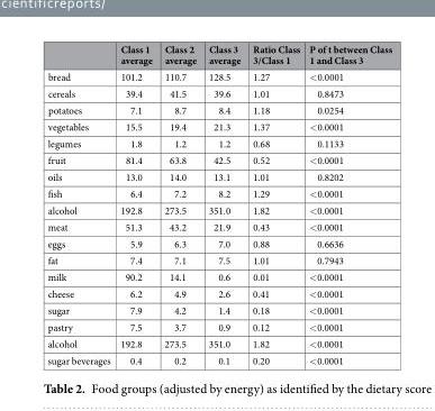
<table><thead><tr><td></td><td>Class 1 average</td><td>Class 2 average</td><td>Class 3 average</td><td>Ratio Class 3/Class 1</td><td>P of t between Class 1 and Class 3</td></tr></thead><tbody><tr><td>bread</td><td>101.2</td><td>110.7</td><td>128.5</td><td>1.27</td><td>&lt;0.0001</td></tr><tr><td>cereals</td><td>39.4</td><td>41.5</td><td>39.6</td><td>1.01</td><td>0.8473</td></tr><tr><td>potatoes</td><td>7.1</td><td>8.7</td><td>8.4</td><td>1.18</td><td>0.0254</td></tr><tr><td>vegetables</td><td>15.5</td><td>19.4</td><td>21.3</td><td>1.37</td><td>&lt;0.0001</td></tr><tr><td>legumes</td><td>1.8</td><td>1.2</td><td>1.2</td><td>0.68</td><td>0.1133</td></tr><tr><td>fruit</td><td>81.4</td><td>63.8</td><td>42.5</td><td>0.52</td><td>&lt;0.0001</td></tr><tr><td>oils</td><td>13.0</td><td>14.0</td><td>13.1</td><td>1.01</td><td>0.8202</td></tr><tr><td>fish</td><td>6.4</td><td>7.2</td><td>8.2</td><td>1.29</td><td>&lt;0.0001</td></tr><tr><td>alcohol</td><td>192.8</td><td>273.5</td><td>351.0</td><td>1.82</td><td>&lt;0.0001</td></tr><tr><td>meat</td><td>51.3</td><td>43.2</td><td>21.9</td><td>0.43</td><td>&lt;0.0001</td></tr><tr><td>eggs</td><td>5.9</td><td>6.3</td><td>7.0</td><td>0.88</td><td>0.6636</td></tr><tr><td>fat</td><td>7.4</td><td>7.1</td><td>7.5</td><td>1.01</td><td>0.7943</td></tr><tr><td>milk</td><td>90.2</td><td>14.1</td><td>0.6</td><td>0.01</td><td>&lt;0.0001</td></tr><tr><td>cheese</td><td>6.2</td><td>4.9</td><td>2.6</td><td>0.41</td><td>&lt;0.0001</td></tr><tr><td>sugar</td><td>7.9</td><td>4.2</td><td>1.4</td><td>0.18</td><td>&lt;0.0001</td></tr><tr><td>pastry</td><td>7.5</td><td>3.7</td><td>0.9</td><td>0.12</td><td>&lt;0.0001</td></tr><tr><td>alcohol</td><td>192.8</td><td>273.5</td><td>351.0</td><td>1.82</td><td>&lt;0.0001</td></tr><tr><td>sugar beverages</td><td>0.4</td><td>0.2</td><td>0.1</td><td>0.20</td><td>&lt;0.0001</td></tr></tbody></table>